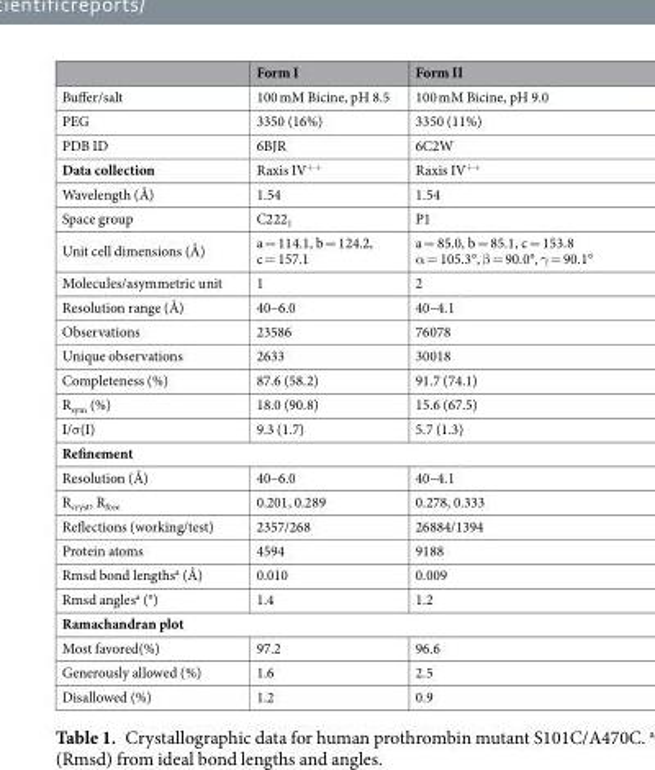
<table><thead><tr><td></td><td>Form I</td><td>Form II</td></tr></thead><tbody><tr><td>Buffer/salt</td><td>100 mM Bicine, pH 8.5</td><td>100 mM Bicine, pH 9.0</td></tr><tr><td>PEG</td><td>3350 (16%)</td><td>3350 (11%)</td></tr><tr><td>PDB ID</td><td>6BJR</td><td>6C2W</td></tr><tr><td>Data collection</td><td>Raxis IV<sup>++</sup></td><td>Raxis IV<sup>++</sup></td></tr><tr><td>Wavelength (Å)</td><td>1.54</td><td>1.54</td></tr><tr><td>Space group</td><td>C222<sub>1</sub></td><td>P1</td></tr><tr><td>Unit cell dimensions (Å)</td><td>a = 114.1, b = 124.2, c = 157.1</td><td>a = 85.0, b = 85.1, c = 153.8 α = 105.3°, β = 90.0°, γ = 90.1°</td></tr><tr><td>Molecules/asymmetric unit</td><td>1</td><td>2</td></tr><tr><td>Resolution range (Å)</td><td>40–6.0</td><td>40–4.1</td></tr><tr><td>Observations</td><td>23586</td><td>76078</td></tr><tr><td>Unique observations</td><td>2633</td><td>30018</td></tr><tr><td>Completeness (%)</td><td>87.6 (58.2)</td><td>91.7 (74.1)</td></tr><tr><td>R<sub>sym</sub> (%)</td><td>18.0 (90.8)</td><td>15.6 (67.5)</td></tr><tr><td>I/σ(I)</td><td>9.3 (1.7)</td><td>5.7 (1.3)</td></tr><tr><td colspan="3">Refinement</td></tr><tr><td>Resolution (Å)</td><td>40–6.0</td><td>40–4.1</td></tr><tr><td>R<sub>cryst</sub>, R<sub>free</sub></td><td>0.201, 0.289</td><td>0.278, 0.333</td></tr><tr><td>Reflections (working/test)</td><td>2357/268</td><td>26884/1394</td></tr><tr><td>Protein atoms</td><td>4594</td><td>9188</td></tr><tr><td>Rmsd bond lengths<sup>a</sup> (Å)</td><td>0.010</td><td>0.009</td></tr><tr><td>Rmsd angles<sup>a</sup> (°)</td><td>1.4</td><td>1.2</td></tr><tr><td colspan="3">Ramachandran plot</td></tr><tr><td>Most favored(%)</td><td>97.2</td><td>96.6</td></tr><tr><td>Generously allowed (%)</td><td>1.6</td><td>2.5</td></tr><tr><td>Disallowed (%)</td><td>1.2</td><td>0.9</td></tr></tbody></table>